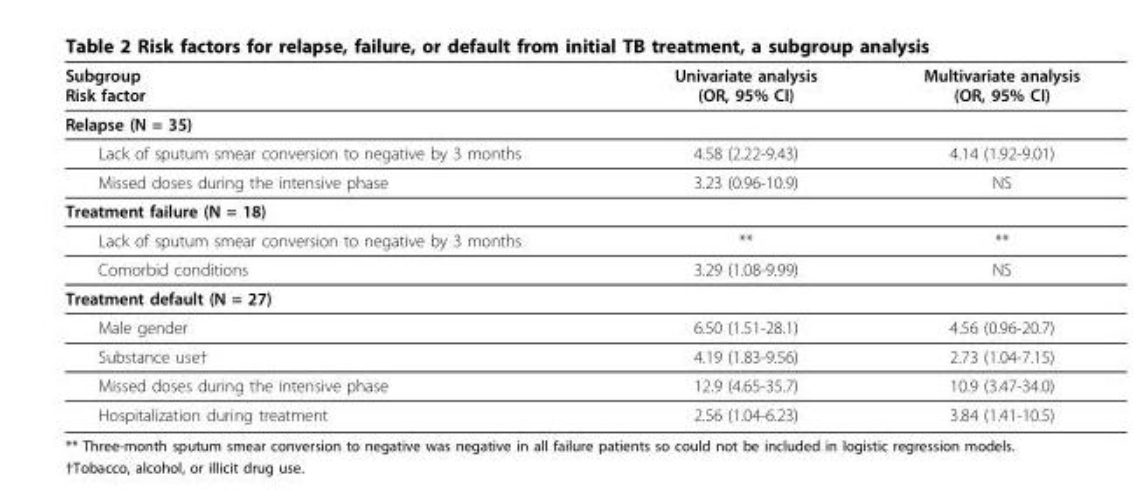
<table><thead><tr><td>Subgroup Risk factor</td><td>Univariate analysis (OR, 95% CI)</td><td>Multivariate analysis (OR, 95% CI)</td></tr></thead><tbody><tr><td colspan="3">Relapse (N = 35)</td></tr><tr><td>Lack of sputum smear conversion to negative by 3 months</td><td>4.58 (2.22-9.43)</td><td>4.14 (1.92-9.01)</td></tr><tr><td>Missed doses during the intensive phase</td><td>3.23 (0.96-10.9)</td><td>NS</td></tr><tr><td colspan="3">Treatment failure (N = 18)</td></tr><tr><td>Lack of sputum smear conversion to negative by 3 months</td><td>**</td><td>**</td></tr><tr><td>Comorbid conditions</td><td>3.29 (1.08-9.99)</td><td>NS</td></tr><tr><td colspan="3">Treatment default (N = 27)</td></tr><tr><td>Male gender</td><td>6.50 (1.51-28.1)</td><td>4.56 (0.96-20.7)</td></tr><tr><td>Substance use†</td><td>4.19 (1.83-9.56)</td><td>2.73 (1.04-7.15)</td></tr><tr><td>Missed doses during the intensive phase</td><td>12.9 (4.65-35.7)</td><td>10.9 (3.47-34.0)</td></tr><tr><td>Hospitalization during treatment</td><td>2.56 (1.04-6.23)</td><td>3.84 (1.41-10.5)</td></tr></tbody></table>